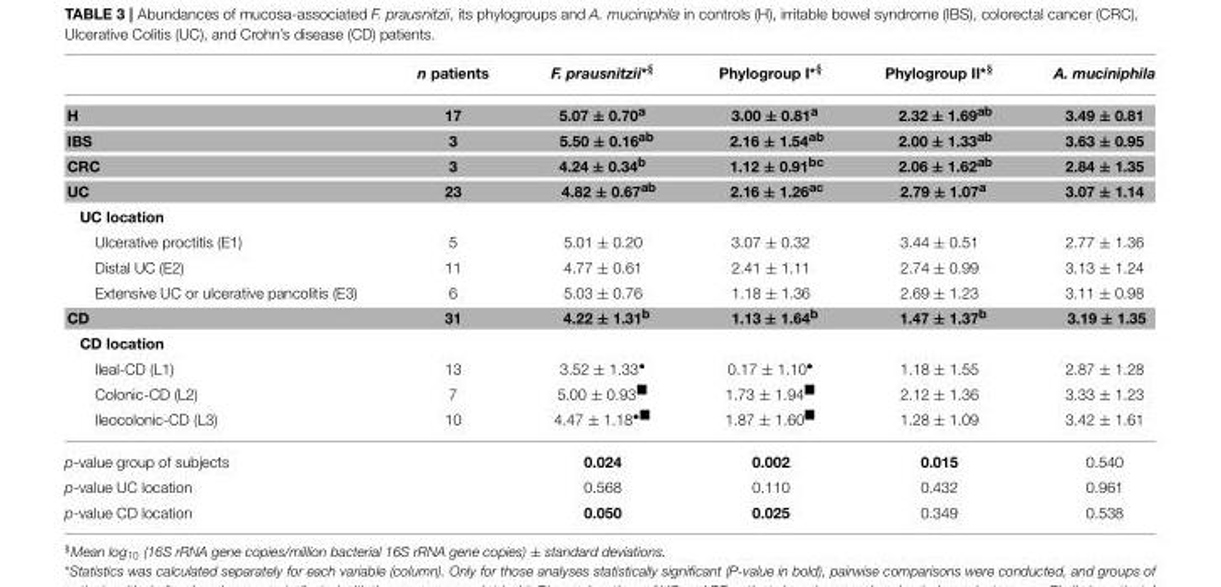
<table><thead><tr><td></td><td>n patients</td><td>F. prausnitzii<sup>*§</sup></td><td>Phylogroup I<sup>*§</sup></td><td>Phylogroup II<sup>*§</sup></td><td>A. muciniphila</td></tr></thead><tbody><tr><td>H</td><td>17</td><td>5.07 ± 0.70<sup>a</sup></td><td>3.00 ± 0.81<sup>a</sup></td><td>2.32 ± 1.69<sup>ab</sup></td><td>3.49 ± 0.81</td></tr><tr><td>IBS</td><td>3</td><td>5.50 ± 0.16<sup>ab</sup></td><td>2.16 ± 1.54<sup>ab</sup></td><td>2.00 ± 1.33<sup>ab</sup></td><td>3.63 ± 0.95</td></tr><tr><td>CRC</td><td>3</td><td>4.24 ± 0.34<sup>b</sup></td><td>1.12 ± 0.91<sup>bc</sup></td><td>2.06 ± 1.62<sup>ab</sup></td><td>2.84 ± 1.35</td></tr><tr><td>UC</td><td>23</td><td>4.82 ± 0.67<sup>ab</sup></td><td>2.16 ± 1.26<sup>ac</sup></td><td>2.79 ± 1.07<sup>a</sup></td><td>3.07 ± 1.14</td></tr><tr><td colspan="6">UC location</td></tr><tr><td>Ulcerative proctitis (E1)</td><td>5</td><td>5.01 ± 0.20</td><td>3.07 ± 0.32</td><td>3.44 ± 0.51</td><td>2.77 ± 1.36</td></tr><tr><td>Distal UC (E2)</td><td>11</td><td>4.77 ± 0.61</td><td>2.41 ± 1.11</td><td>2.74 ± 0.99</td><td>3.13 ± 1.24</td></tr><tr><td>Extensive UC or ulcerative pancolitis (E3)</td><td>6</td><td>5.03 ± 0.76</td><td>1.18 ± 1.36</td><td>2.69 ± 1.23</td><td>3.11 ± 0.98</td></tr><tr><td>CD</td><td>31</td><td>4.22 ± 1.31<sup>b</sup></td><td>1.13 ± 1.64<sup>b</sup></td><td>1.47 ± 1.37<sup>b</sup></td><td>3.19 ± 1.35</td></tr><tr><td colspan="6">CD location</td></tr><tr><td>Ileal-CD (L1)</td><td>13</td><td>3.52 ± 1.33<sup>•</sup></td><td>0.17 ± 1.10<sup>•</sup></td><td>1.18 ± 1.55</td><td>2.87 ± 1.28</td></tr><tr><td>Colonic-CD (L2)</td><td>7</td><td>5.00 ± 0.93<sup>■</sup></td><td>1.73 ± 1.94<sup>■</sup></td><td>2.12 ± 1.36</td><td>3.33 ± 1.23</td></tr><tr><td>Ileocolonic-CD (L3)</td><td>10</td><td>4.47 ± 1.18<sup>•■</sup></td><td>1.87 ± 1.60<sup>■</sup></td><td>1.28 ± 1.09</td><td>3.42 ± 1.61</td></tr><tr><td>p-value group of subjects</td><td></td><td>0.024</td><td>0.002</td><td>0.015</td><td>0.540</td></tr><tr><td>p-value UC location</td><td></td><td>0.568</td><td>0.110</td><td>0.432</td><td>0.961</td></tr><tr><td>p-value CD location</td><td></td><td>0.050</td><td>0.025</td><td>0.349</td><td>0.538</td></tr></tbody></table>